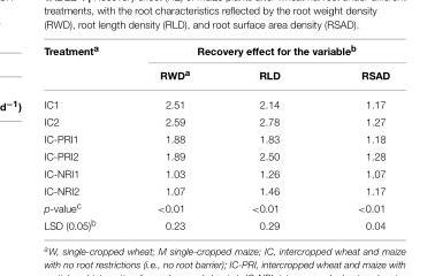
<table><thead><tr><td rowspan="2">Treatment<sup>a</sup></td><td colspan="3">Recovery effect for the variable<sup>b</sup></td></tr><tr><td>RWD<sup>a</sup></td><td>RLD</td><td>RSAD</td></tr></thead><tbody><tr><td>IC1</td><td>2.51</td><td>2.14</td><td>1.17</td></tr><tr><td>IC2</td><td>2.59</td><td>2.78</td><td>1.27</td></tr><tr><td>IC-PRI1</td><td>1.88</td><td>1.83</td><td>1.18</td></tr><tr><td>IC-PRI2</td><td>1.89</td><td>2.50</td><td>1.28</td></tr><tr><td>IC-NRI1</td><td>1.03</td><td>1.26</td><td>1.07</td></tr><tr><td>IC-NRI2</td><td>1.07</td><td>1.46</td><td>1.17</td></tr><tr><td>p-value<sup>c</sup></td><td>&lt;0.01</td><td>&lt;0.01</td><td>&lt;0.01</td></tr><tr><td>LSD (0.05)<sup>b</sup></td><td>0.23</td><td>0.29</td><td>0.04</td></tr></tbody></table>